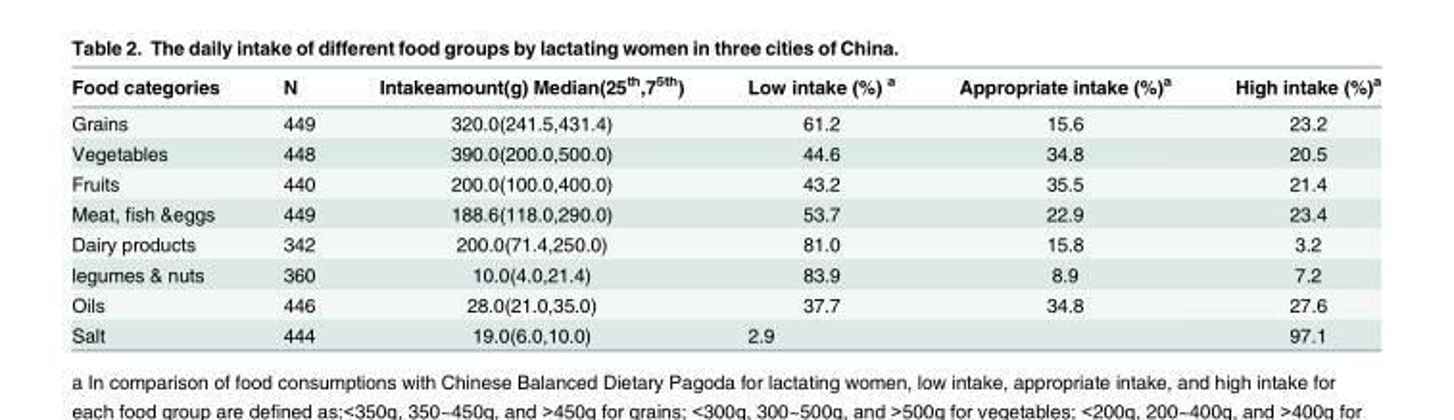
<table><thead><tr><td>Food categories</td><td>N</td><td>Intakeamount(g) Median(25<sup>th</sup>,7<sup>5th</sup>)</td><td>Low intake (%) <sup>a</sup></td><td>Appropriate intake (%)<sup>a</sup></td><td>High intake (%)<sup>a</sup></td></tr></thead><tbody><tr><td>Grains</td><td>449</td><td>320.0(241.5,431.4)</td><td>61.2</td><td>15.6</td><td>23.2</td></tr><tr><td>Vegetables</td><td>448</td><td>390.0(200.0,500.0)</td><td>44.6</td><td>34.8</td><td>20.5</td></tr><tr><td>Fruits</td><td>440</td><td>200.0(100.0,400.0)</td><td>43.2</td><td>35.5</td><td>21.4</td></tr><tr><td>Meat, fish &amp;eggs</td><td>449</td><td>188.6(118.0,290.0)</td><td>53.7</td><td>22.9</td><td>23.4</td></tr><tr><td>Dairy products</td><td>342</td><td>200.0(71.4,250.0)</td><td>81.0</td><td>15.8</td><td>3.2</td></tr><tr><td>legumes &amp; nuts</td><td>360</td><td>10.0(4.0,21.4)</td><td>83.9</td><td>8.9</td><td>7.2</td></tr><tr><td>Oils</td><td>446</td><td>28.0(21.0,35.0)</td><td>37.7</td><td>34.8</td><td>27.6</td></tr><tr><td>Salt</td><td>444</td><td>19.0(6.0,10.0)</td><td colspan="2">2.9</td><td>97.1</td></tr></tbody></table>